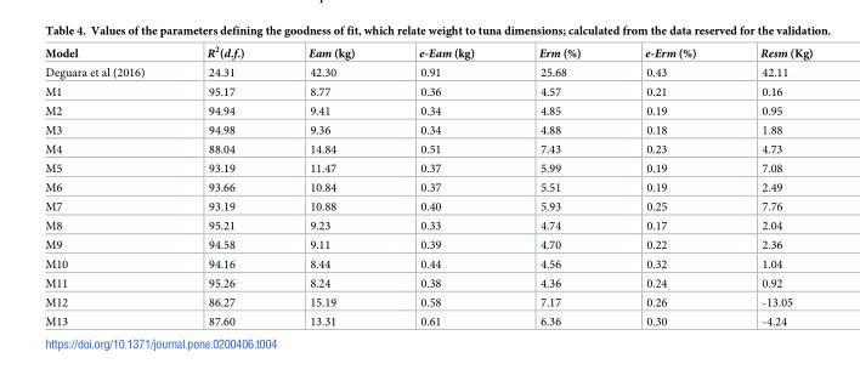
<table><thead><tr><td>Model</td><td>R<sup>2</sup>(d.f.)</td><td>Eam (kg)</td><td>e-Eam (kg)</td><td>Erm (%)</td><td>e-Erm (%)</td><td>Resm (Kg)</td></tr></thead><tbody><tr><td>Deguara et al (2016)</td><td>24.31</td><td>42.30</td><td>0.91</td><td>25.68</td><td>0.43</td><td>42.11</td></tr><tr><td>M1</td><td>95.17</td><td>8.77</td><td>0.36</td><td>4.57</td><td>0.21</td><td>0.16</td></tr><tr><td>M2</td><td>94.94</td><td>9.41</td><td>0.34</td><td>4.85</td><td>0.19</td><td>0.95</td></tr><tr><td>M3</td><td>94.98</td><td>9.36</td><td>0.34</td><td>4.88</td><td>0.18</td><td>1.88</td></tr><tr><td>M4</td><td>88.04</td><td>14.84</td><td>0.51</td><td>7.43</td><td>0.23</td><td>4.73</td></tr><tr><td>M5</td><td>93.19</td><td>11.47</td><td>0.37</td><td>5.99</td><td>0.19</td><td>7.08</td></tr><tr><td>M6</td><td>93.66</td><td>10.84</td><td>0.37</td><td>5.51</td><td>0.19</td><td>2.49</td></tr><tr><td>M7</td><td>93.19</td><td>10.88</td><td>0.40</td><td>5.93</td><td>0.25</td><td>7.76</td></tr><tr><td>M8</td><td>95.21</td><td>9.23</td><td>0.33</td><td>4.74</td><td>0.17</td><td>2.04</td></tr><tr><td>M9</td><td>94.58</td><td>9.11</td><td>0.39</td><td>4.70</td><td>0.22</td><td>2.36</td></tr><tr><td>M10</td><td>94.16</td><td>8.44</td><td>0.44</td><td>4.56</td><td>0.32</td><td>1.04</td></tr><tr><td>M11</td><td>95.26</td><td>8.24</td><td>0.38</td><td>4.36</td><td>0.24</td><td>0.92</td></tr><tr><td>M12</td><td>86.27</td><td>15.19</td><td>0.58</td><td>7.17</td><td>0.26</td><td>-13.05</td></tr><tr><td>M13</td><td>87.60</td><td>13.31</td><td>0.61</td><td>6.36</td><td>0.30</td><td>-4.24</td></tr></tbody></table>